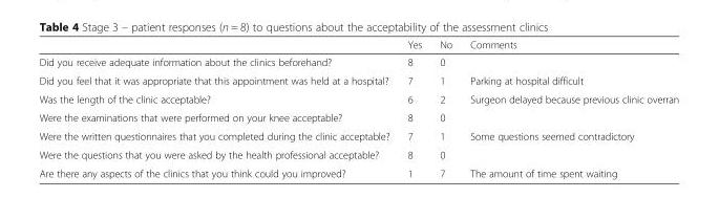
<table><thead><tr><td></td><td>Yes</td><td>No</td><td>Comments</td></tr></thead><tbody><tr><td>Did you receive adequate information about the clinics beforehand?</td><td>8</td><td>0</td><td></td></tr><tr><td>Did you feel that it was appropriate that this appointment was held at a hospital?</td><td>7</td><td>1</td><td>Parking at hospital difficult</td></tr><tr><td>Was the length of the clinic acceptable?</td><td>6</td><td>2</td><td>Surgeon delayed because previous clinic overran</td></tr><tr><td>Were the examinations that were performed on your knee acceptable?</td><td>8</td><td>0</td><td></td></tr><tr><td>Were the written questionnaires that you completed during the clinic acceptable?</td><td>7</td><td>1</td><td>Some questions seemed contradictory</td></tr><tr><td>Were the questions that you were asked by the health professional acceptable?</td><td>8</td><td>0</td><td></td></tr><tr><td>Are there any aspects of the clinics that you think could you improved?</td><td>1</td><td>7</td><td>The amount of time spent waiting</td></tr></tbody></table>